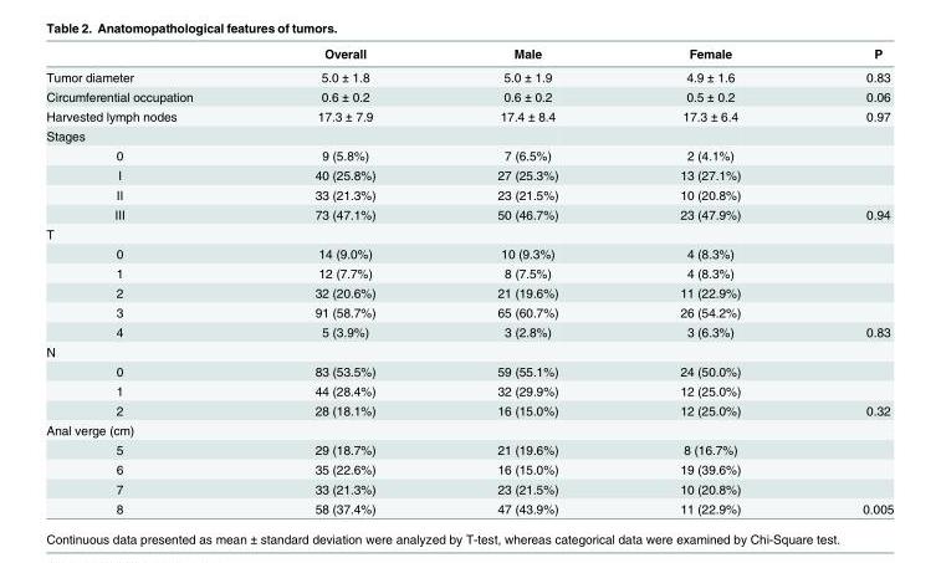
<table><thead><tr><td></td><td>Overall</td><td>Male</td><td>Female</td><td>P</td></tr></thead><tbody><tr><td>Tumor diameter</td><td>5.0 ± 1.8</td><td>5.0 ± 1.9</td><td>4.9 ± 1.6</td><td>0.83</td></tr><tr><td>Circumferential occupation</td><td>0.6 ± 0.2</td><td>0.6 ± 0.2</td><td>0.5 ± 0.2</td><td>0.06</td></tr><tr><td>Harvested lymph nodes</td><td>17.3 ± 7.9</td><td>17.4 ± 8.4</td><td>17.3 ± 6.4</td><td>0.97</td></tr><tr><td colspan="5">Stages</td></tr><tr><td>0</td><td>9 (5.8%)</td><td>7 (6.5%)</td><td>2 (4.1%)</td><td></td></tr><tr><td>I</td><td>40 (25.8%)</td><td>27 (25.3%)</td><td>13 (27.1%)</td><td></td></tr><tr><td>II</td><td>33 (21.3%)</td><td>23 (21.5%)</td><td>10 (20.8%)</td><td></td></tr><tr><td>III</td><td>73 (47.1%)</td><td>50 (46.7%)</td><td>23 (47.9%)</td><td>0.94</td></tr><tr><td colspan="5">T</td></tr><tr><td>0</td><td>14 (9.0%)</td><td>10 (9.3%)</td><td>4 (8.3%)</td><td></td></tr><tr><td>1</td><td>12 (7.7%)</td><td>8 (7.5%)</td><td>4 (8.3%)</td><td></td></tr><tr><td>2</td><td>32 (20.6%)</td><td>21 (19.6%)</td><td>11 (22.9%)</td><td></td></tr><tr><td>3</td><td>91 (58.7%)</td><td>65 (60.7%)</td><td>26 (54.2%)</td><td></td></tr><tr><td>4</td><td>5 (3.9%)</td><td>3 (2.8%)</td><td>3 (6.3%)</td><td>0.83</td></tr><tr><td colspan="5">N</td></tr><tr><td>0</td><td>83 (53.5%)</td><td>59 (55.1%)</td><td>24 (50.0%)</td><td></td></tr><tr><td>1</td><td>44 (28.4%)</td><td>32 (29.9%)</td><td>12 (25.0%)</td><td></td></tr><tr><td>2</td><td>28 (18.1%)</td><td>16 (15.0%)</td><td>12 (25.0%)</td><td>0.32</td></tr><tr><td colspan="5">Anal verge (cm)</td></tr><tr><td>5</td><td>29 (18.7%)</td><td>21 (19.6%)</td><td>8 (16.7%)</td><td></td></tr><tr><td>6</td><td>35 (22.6%)</td><td>16 (15.0%)</td><td>19 (39.6%)</td><td></td></tr><tr><td>7</td><td>33 (21.3%)</td><td>23 (21.5%)</td><td>10 (20.8%)</td><td></td></tr><tr><td>8</td><td>58 (37.4%)</td><td>47 (43.9%)</td><td>11 (22.9%)</td><td>0.005</td></tr></tbody></table>